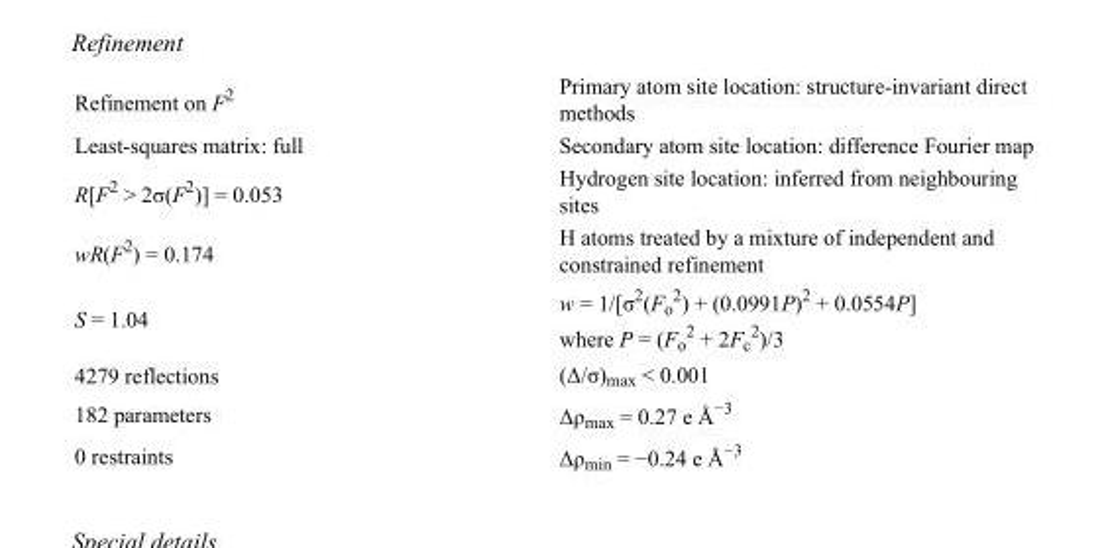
<table><tbody><tr><td>Refinement on F<sup>2</sup></td><td>Primary atom site location: structure-invariant direct methods</td></tr><tr><td>Least-squares matrix: full</td><td>Secondary atom site location: difference Fourier map</td></tr><tr><td>R[F<sup>2</sup> &gt; 2σ(F<sup>2</sup>)] = 0.053</td><td>Hydrogen site location: inferred from neighbouring sites</td></tr><tr><td>wR(F<sup>2</sup>) = 0.174</td><td>H atoms treated by a mixture of independent and constrained refinement</td></tr><tr><td>S = 1.04</td><td>w = 1/[σ<sup>2</sup>(F<sub>o</sub> <sup>2</sup>) + (0.0991P)<sup>2</sup> + 0.0554P] where P = (F<sub>o</sub> <sup>2</sup> + 2F<sub>c</sub> <sup>2</sup>)/3</td></tr><tr><td>4279 reflections</td><td>(Δ/σ)<sub>max</sub> &lt; 0.001</td></tr><tr><td>182 parameters</td><td>Δρ<sub>max</sub> = 0.27 e Å<sup>−3</sup></td></tr><tr><td>0 restraints</td><td>Δρ<sub>min</sub> = −0.24 e Å<sup>−3</sup></td></tr></tbody></table>